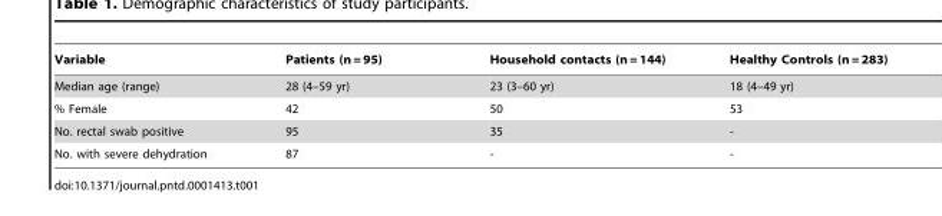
<table><thead><tr><td>Variable</td><td>Patients (n = 95)</td><td>Household contacts (n = 144)</td><td>Healthy Controls (n = 283)</td></tr></thead><tbody><tr><td>Median age (range)</td><td>28 (4–59 yr)</td><td>23 (3–60 yr)</td><td>18 (4–49 yr)</td></tr><tr><td>% Female</td><td>42</td><td>50</td><td>53</td></tr><tr><td>No. rectal swab positive</td><td>95</td><td>35</td><td>-</td></tr><tr><td>No. with severe dehydration</td><td>87</td><td>-</td><td>-</td></tr></tbody></table>